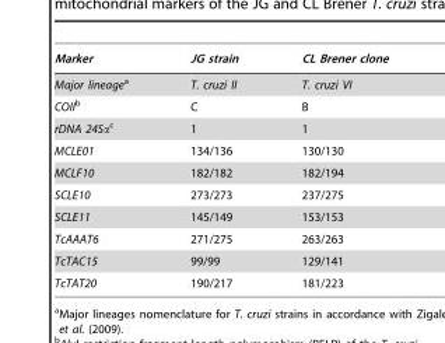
<table><thead><tr><td>Marker</td><td>JG strain</td><td>CL Brener clone</td></tr></thead><tbody><tr><td>Major lineagea</td><td>T. cruzi II</td><td>T. cruzi VI</td></tr><tr><td>COIIb</td><td>C</td><td>B</td></tr><tr><td>rDNA 24Sαc</td><td>1</td><td>1</td></tr><tr><td>MCLE01</td><td>134/136</td><td>130/130</td></tr><tr><td>MCLF10</td><td>182/182</td><td>182/194</td></tr><tr><td>SCLE10</td><td>273/273</td><td>237/275</td></tr><tr><td>SCLE11</td><td>145/149</td><td>153/153</td></tr><tr><td>TcAAAT6</td><td>271/275</td><td>263/263</td></tr><tr><td>TcTAC15</td><td>99/99</td><td>129/141</td></tr><tr><td>TcTAT20</td><td>190/217</td><td>181/223</td></tr></tbody></table>